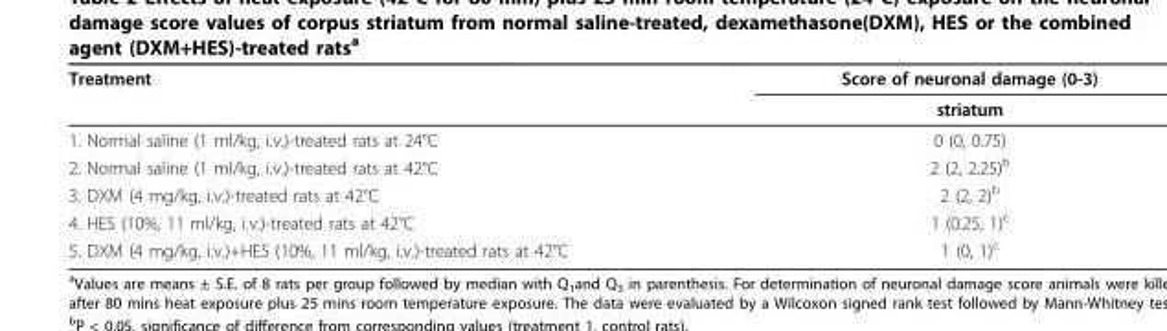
<table><thead><tr><td rowspan="2">Treatment</td><td rowspan="2">Score of neuronal damage (0-3) striatum</td></tr><tr></tr></thead><tbody><tr><td>1. Normal saline (1 ml/kg, i.v.)-treated rats at 24°C</td><td>0 (0, 0.75)</td></tr><tr><td>2. Normal saline (1 ml/kg, i.v.)-treated rats at 42°C</td><td>2 (2, 2.25)<sup>b</sup></td></tr><tr><td>3. DXM (4 mg/kg, i.v.)-treated rats at 42°C</td><td>2 (2, 2)<sup>b</sup></td></tr><tr><td>4. HES (10%, 11 ml/kg, i.v.)-treated rats at 42°C</td><td>1 (0.25, 1)<sup>c</sup></td></tr><tr><td>5. DXM (4 mg/kg, i.v.)+HES (10%, 11 ml/kg, i.v.)-treated rats at 42°C</td><td>1 (0, 1)<sup>c</sup></td></tr></tbody></table>